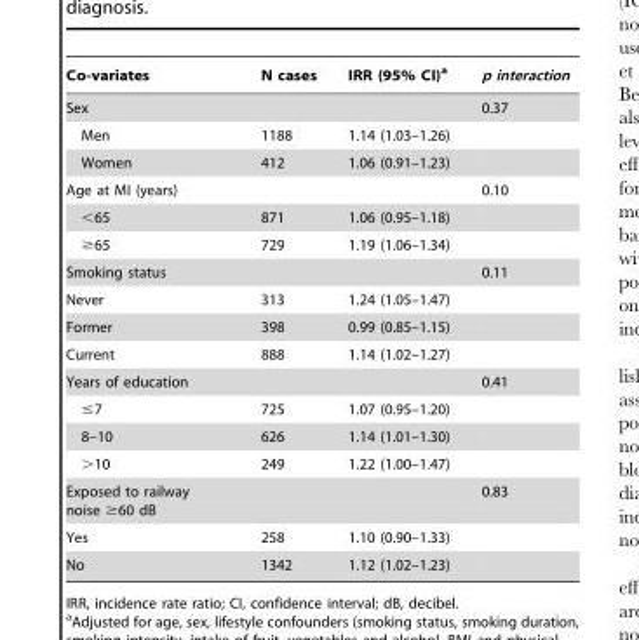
<table><thead><tr><td>Co-variates</td><td>N cases</td><td>IRR (95% CI)<sup>a</sup></td><td>p interaction</td></tr></thead><tbody><tr><td>Sex</td><td></td><td></td><td>0.37</td></tr><tr><td>Men</td><td>1188</td><td>1.14 (1.03–1.26)</td><td></td></tr><tr><td>Women</td><td>412</td><td>1.06 (0.91–1.23)</td><td></td></tr><tr><td>Age at MI (years)</td><td></td><td></td><td>0.10</td></tr><tr><td>&lt;65</td><td>871</td><td>1.06 (0.95–1.18)</td><td></td></tr><tr><td>≥65</td><td>729</td><td>1.19 (1.06–1.34)</td><td></td></tr><tr><td>Smoking status</td><td></td><td></td><td>0.11</td></tr><tr><td>Never</td><td>313</td><td>1.24 (1.05–1.47)</td><td></td></tr><tr><td>Former</td><td>398</td><td>0.99 (0.85–1.15)</td><td></td></tr><tr><td>Current</td><td>888</td><td>1.14 (1.02–1.27)</td><td></td></tr><tr><td>Years of education</td><td></td><td></td><td>0.41</td></tr><tr><td>≤7</td><td>725</td><td>1.07 (0.95–1.20)</td><td></td></tr><tr><td>8–10</td><td>626</td><td>1.14 (1.01–1.30)</td><td></td></tr><tr><td>&gt;10</td><td>249</td><td>1.22 (1.00–1.47)</td><td></td></tr><tr><td>Exposed to railway noise ≥60 dB</td><td></td><td></td><td>0.83</td></tr><tr><td>Yes</td><td>258</td><td>1.10 (0.90–1.33)</td><td></td></tr><tr><td>No</td><td>1342</td><td>1.12 (1.02–1.23)</td><td></td></tr></tbody></table>